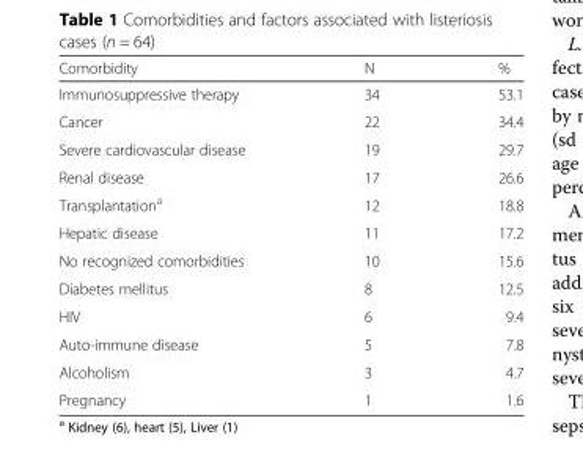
<table><thead><tr><td>Comorbidity</td><td>N</td><td>%</td></tr></thead><tbody><tr><td>Immunosuppressive therapy</td><td>34</td><td>53.1</td></tr><tr><td>Cancer</td><td>22</td><td>34.4</td></tr><tr><td>Severe cardiovascular disease</td><td>19</td><td>29.7</td></tr><tr><td>Renal disease</td><td>17</td><td>26.6</td></tr><tr><td>Transplantation<sup>a</sup></td><td>12</td><td>18.8</td></tr><tr><td>Hepatic disease</td><td>11</td><td>17.2</td></tr><tr><td>No recognized comorbidities</td><td>10</td><td>15.6</td></tr><tr><td>Diabetes mellitus</td><td>8</td><td>12.5</td></tr><tr><td>HIV</td><td>6</td><td>9.4</td></tr><tr><td>Auto-immune disease</td><td>5</td><td>7.8</td></tr><tr><td>Alcoholism</td><td>3</td><td>4.7</td></tr><tr><td>Pregnancy</td><td>1</td><td>1.6</td></tr></tbody></table>